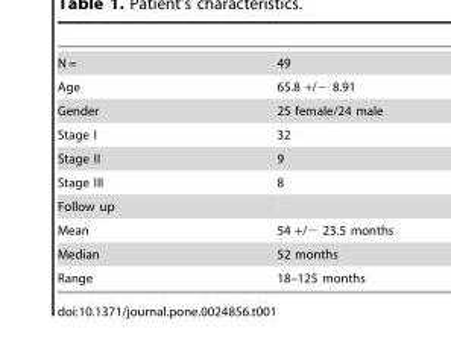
<table><tbody><tr><td>N =</td><td>49</td></tr><tr><td>Age</td><td>65.8 +/− 8.91</td></tr><tr><td>Gender</td><td>25 female/24 male</td></tr><tr><td>Stage I</td><td>32</td></tr><tr><td>Stage II</td><td>9</td></tr><tr><td>Stage III</td><td>8</td></tr><tr><td colspan="2">Follow up</td></tr><tr><td>Mean</td><td>54 +/− 23.5 months</td></tr><tr><td>Median</td><td>52 months</td></tr><tr><td>Range</td><td>18–125 months</td></tr></tbody></table>